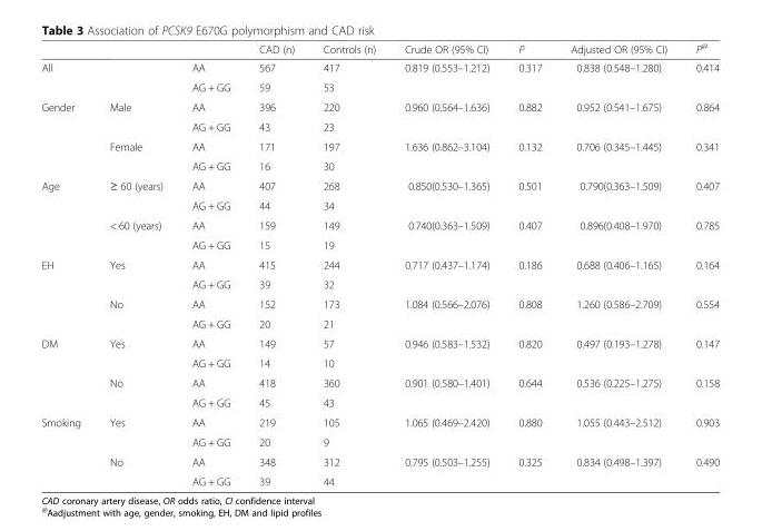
<table><thead><tr><td></td><td></td><td></td><td>CAD (n)</td><td>Controls (n)</td><td>Crude OR (95% CI)</td><td>P</td><td>Adjusted OR (95% CI)</td><td>P<sup>@</sup></td></tr></thead><tbody><tr><td rowspan="2">All</td><td rowspan="2"></td><td>AA</td><td>567</td><td>417</td><td rowspan="2">0.819 (0.553–1.212)</td><td rowspan="2">0.317</td><td rowspan="2">0.838 (0.548–1.280)</td><td rowspan="2">0.414</td></tr><tr><td>AG + GG</td><td>59</td><td>53</td></tr><tr><td rowspan="4">Gender</td><td rowspan="2">Male</td><td>AA</td><td>396</td><td>220</td><td rowspan="2">0.960 (0.564–1.636)</td><td rowspan="2">0.882</td><td rowspan="2">0.952 (0.541–1.675)</td><td rowspan="2">0.864</td></tr><tr><td>AG + GG</td><td>43</td><td>23</td></tr><tr><td rowspan="2">Female</td><td>AA</td><td>171</td><td>197</td><td rowspan="2">1.636 (0.862–3.104)</td><td rowspan="2">0.132</td><td rowspan="2">0.706 (0.345–1.445)</td><td rowspan="2">0.341</td></tr><tr><td>AG + GG</td><td>16</td><td>30</td></tr><tr><td rowspan="4">Age</td><td rowspan="2">≥ 60 (years)</td><td>AA</td><td>407</td><td>268</td><td rowspan="2">0.850(0.530–1.365)</td><td rowspan="2">0.501</td><td rowspan="2">0.790(0.363–1.509)</td><td rowspan="2">0.407</td></tr><tr><td>AG + GG</td><td>44</td><td>34</td></tr><tr><td rowspan="2">&lt; 60 (years)</td><td>AA</td><td>159</td><td>149</td><td rowspan="2">0.740(0.363–1.509)</td><td rowspan="2">0.407</td><td rowspan="2">0.896(0.408–1.970)</td><td rowspan="2">0.785</td></tr><tr><td>AG + GG</td><td>15</td><td>19</td></tr><tr><td rowspan="4">EH</td><td rowspan="2">Yes</td><td>AA</td><td>415</td><td>244</td><td rowspan="2">0.717 (0.437–1.174)</td><td rowspan="2">0.186</td><td rowspan="2">0.688 (0.406–1.165)</td><td rowspan="2">0.164</td></tr><tr><td>AG + GG</td><td>39</td><td>32</td></tr><tr><td rowspan="2">No</td><td>AA</td><td>152</td><td>173</td><td rowspan="2">1.084 (0.566–2.076)</td><td rowspan="2">0.808</td><td rowspan="2">1.260 (0.586–2.709)</td><td rowspan="2">0.554</td></tr><tr><td>AG + GG</td><td>20</td><td>21</td></tr><tr><td rowspan="4">DM</td><td rowspan="2">Yes</td><td>AA</td><td>149</td><td>57</td><td rowspan="2">0.946 (0.583–1.532)</td><td rowspan="2">0.820</td><td rowspan="2">0.497 (0.193–1.278)</td><td rowspan="2">0.147</td></tr><tr><td>AG + GG</td><td>14</td><td>10</td></tr><tr><td rowspan="2">No</td><td>AA</td><td>418</td><td>360</td><td rowspan="2">0.901 (0.580–1.401)</td><td rowspan="2">0.644</td><td rowspan="2">0.536 (0.225–1.275)</td><td rowspan="2">0.158</td></tr><tr><td>AG + GG</td><td>45</td><td>43</td></tr><tr><td rowspan="4">Smoking</td><td rowspan="2">Yes</td><td>AA</td><td>219</td><td>105</td><td rowspan="2">1.065 (0.469–2.420)</td><td rowspan="2">0.880</td><td rowspan="2">1.055 (0.443–2.512)</td><td rowspan="2">0.903</td></tr><tr><td>AG + GG</td><td>20</td><td>9</td></tr><tr><td rowspan="2">No</td><td>AA</td><td>348</td><td>312</td><td rowspan="2">0.795 (0.503–1.255)</td><td rowspan="2">0.325</td><td rowspan="2">0.834 (0.498–1.397)</td><td rowspan="2">0.490</td></tr><tr><td>AG + GG</td><td>39</td><td>44</td></tr></tbody></table>